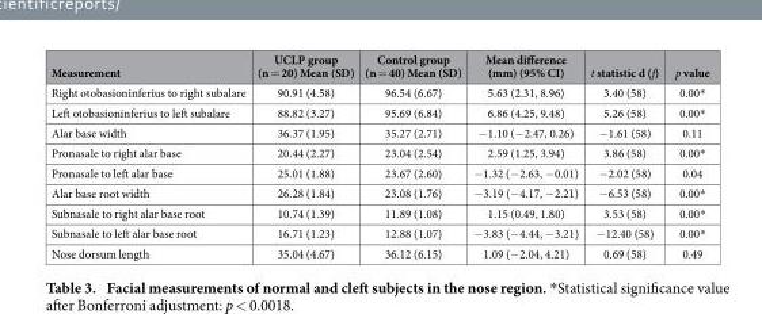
<table><thead><tr><td>Measurement</td><td>UCLP group (n = 20) Mean (SD)</td><td>Control group (n = 40) Mean (SD)</td><td>Mean difference (mm) (95% CI)</td><td>t statistic d (f)</td><td>p value</td></tr></thead><tbody><tr><td>Right otobasioninferius to right subalare</td><td>90.91 (4.58)</td><td>96.54 (6.67)</td><td>5.63 (2.31, 8.96)</td><td>3.40 (58)</td><td>0.00*</td></tr><tr><td>Left otobasioninferius to left subalare</td><td>88.82 (3.27)</td><td>95.69 (6.84)</td><td>6.86 (4.25, 9.48)</td><td>5.26 (58)</td><td>0.00*</td></tr><tr><td>Alar base width</td><td>36.37 (1.95)</td><td>35.27 (2.71)</td><td>− 1.10 (− 2.47, 0.26)</td><td>− 1.61 (58)</td><td>0.11</td></tr><tr><td>Pronasale to right alar base</td><td>20.44 (2.27)</td><td>23.04 (2.54)</td><td>2.59 (1.25, 3.94)</td><td>3.86 (58)</td><td>0.00*</td></tr><tr><td>Pronasale to left alar base</td><td>25.01 (1.88)</td><td>23.67 (2.60)</td><td>− 1.32 (− 2.63, − 0.01)</td><td>− 2.02 (58)</td><td>0.04</td></tr><tr><td>Alar base root width</td><td>26.28 (1.84)</td><td>23.08 (1.76)</td><td>− 3.19 (− 4.17, − 2.21)</td><td>− 6.53 (58)</td><td>0.00*</td></tr><tr><td>Subnasale to right alar base root</td><td>10.74 (1.39)</td><td>11.89 (1.08)</td><td>1.15 (0.49, 1.80)</td><td>3.53 (58)</td><td>0.00*</td></tr><tr><td>Subnasale to left alar base root</td><td>16.71 (1.23)</td><td>12.88 (1.07)</td><td>− 3.83 (− 4.44, − 3.21)</td><td>− 12.40 (58)</td><td>0.00*</td></tr><tr><td>Nose dorsum length</td><td>35.04 (4.67)</td><td>36.12 (6.15)</td><td>1.09 (− 2.04, 4.21)</td><td>0.69 (58)</td><td>0.49</td></tr></tbody></table>